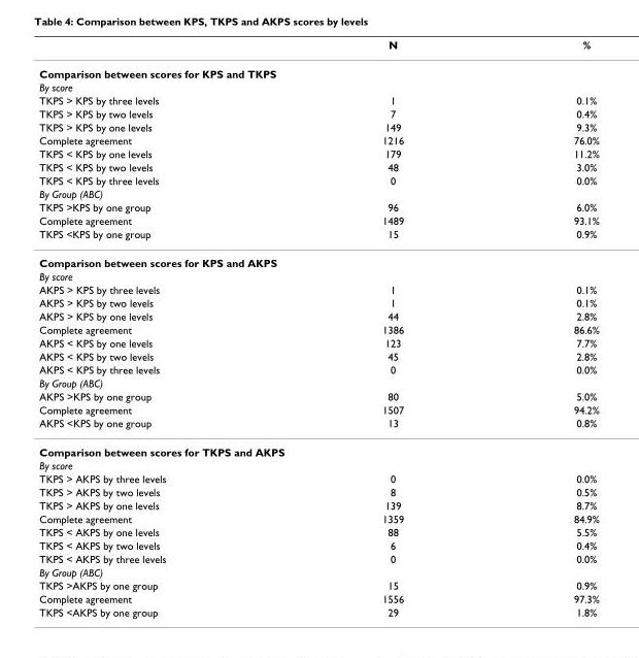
<table><thead><tr><td></td><td>N</td><td>%</td></tr></thead><tbody><tr><td colspan="3">Comparison between scores for KPS and TKPS</td></tr><tr><td colspan="3">By score</td></tr><tr><td>TKPS &gt; KPS by three levels</td><td>1</td><td>0.1%</td></tr><tr><td>TKPS &gt; KPS by two levels</td><td>7</td><td>0.4%</td></tr><tr><td>TKPS &gt; KPS by one levels</td><td>149</td><td>9.3%</td></tr><tr><td>Complete agreement</td><td>1216</td><td>76.0%</td></tr><tr><td>TKPS &lt; KPS by one levels</td><td>179</td><td>11.2%</td></tr><tr><td>TKPS &lt; KPS by two levels</td><td>48</td><td>3.0%</td></tr><tr><td>TKPS &lt; KPS by three levels</td><td>0</td><td>0.0%</td></tr><tr><td colspan="3">By Group (ABC)</td></tr><tr><td>TKPS &gt;KPS by one group</td><td>96</td><td>6.0%</td></tr><tr><td>Complete agreement</td><td>1489</td><td>93.1%</td></tr><tr><td>TKPS &lt;KPS by one group</td><td>15</td><td>0.9%</td></tr><tr><td colspan="3">Comparison between scores for KPS and AKPS</td></tr><tr><td colspan="3">By score</td></tr><tr><td>AKPS &gt; KPS by three levels</td><td>1</td><td>0.1%</td></tr><tr><td>AKPS &gt; KPS by two levels</td><td>1</td><td>0.1%</td></tr><tr><td>AKPS &gt; KPS by one levels</td><td>44</td><td>2.8%</td></tr><tr><td>Complete agreement</td><td>1386</td><td>86.6%</td></tr><tr><td>AKPS &lt; KPS by one levels</td><td>123</td><td>7.7%</td></tr><tr><td>AKPS &lt; KPS by two levels</td><td>45</td><td>2.8%</td></tr><tr><td>AKPS &lt; KPS by three levels</td><td>0</td><td>0.0%</td></tr><tr><td colspan="3">By Group (ABC)</td></tr><tr><td>AKPS &gt;KPS by one group</td><td>80</td><td>5.0%</td></tr><tr><td>Complete agreement</td><td>1507</td><td>94.2%</td></tr><tr><td>AKPS &lt;KPS by one group</td><td>13</td><td>0.8%</td></tr><tr><td colspan="3">Comparison between scores for TKPS and AKPS</td></tr><tr><td colspan="3">By score</td></tr><tr><td>TKPS &gt; AKPS by three levels</td><td>0</td><td>0.0%</td></tr><tr><td>TKPS &gt; AKPS by two levels</td><td>8</td><td>0.5%</td></tr><tr><td>TKPS &gt; AKPS by one levels</td><td>139</td><td>8.7%</td></tr><tr><td>Complete agreement</td><td>1359</td><td>84.9%</td></tr><tr><td>TKPS &lt; AKPS by one levels</td><td>88</td><td>5.5%</td></tr><tr><td>TKPS &lt; AKPS by two levels</td><td>6</td><td>0.4%</td></tr><tr><td>TKPS &lt; AKPS by three levels</td><td>0</td><td>0.0%</td></tr><tr><td colspan="3">By Group (ABC)</td></tr><tr><td>TKPS &gt;AKPS by one group</td><td>15</td><td>0.9%</td></tr><tr><td>Complete agreement</td><td>1556</td><td>97.3%</td></tr><tr><td>TKPS &lt;AKPS by one group</td><td>29</td><td>1.8%</td></tr></tbody></table>